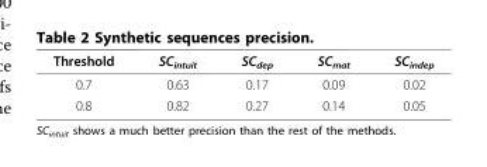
<table><thead><tr><td>Threshold</td><td>SC<sub>intuit</sub></td><td>SC<sub>dep</sub></td><td>SC<sub>mat</sub></td><td>SC<sub>indep</sub></td></tr></thead><tbody><tr><td>0.7</td><td>0.63</td><td>0.17</td><td>0.09</td><td>0.02</td></tr><tr><td>0.8</td><td>0.82</td><td>0.27</td><td>0.14</td><td>0.05</td></tr></tbody></table>